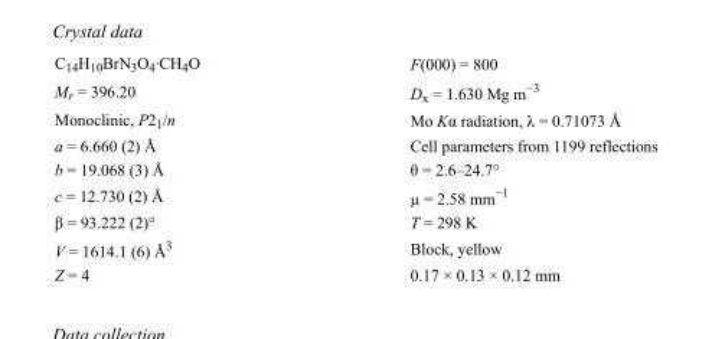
<table><tbody><tr><td>C<sub>14</sub>H<sub>10</sub>BrN<sub>3</sub>O<sub>4</sub>·CH<sub>4</sub>O</td><td>F(000) = 800</td></tr><tr><td>M<sub>r</sub> = 396.20</td><td>D<sub>x</sub> = 1.630 Mg m<sup>−3</sup></td></tr><tr><td>Monoclinic, P2<sub>1</sub>/n</td><td>Mo Kα radiation, λ = 0.71073 Å</td></tr><tr><td>a = 6.660 (2) Å</td><td>Cell parameters from 1199 reflections</td></tr><tr><td>b = 19.068 (3) Å</td><td>θ = 2.6–24.7°</td></tr><tr><td>c = 12.730 (2) Å</td><td>µ = 2.58 mm<sup>−1</sup></td></tr><tr><td>β = 93.222 (2)°</td><td>T = 298 K</td></tr><tr><td>V = 1614.1 (6) Å<sup>3</sup></td><td>Block, yellow</td></tr><tr><td>Z = 4</td><td>0.17 × 0.13 × 0.12 mm</td></tr></tbody></table>